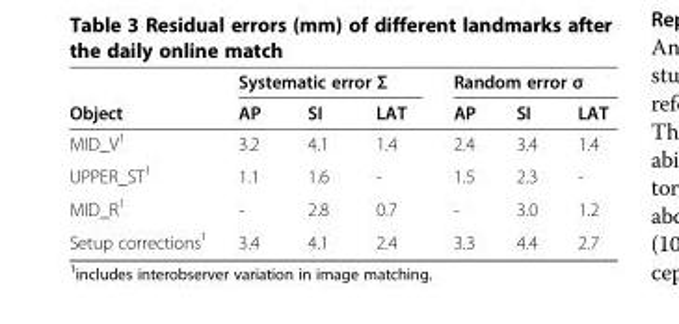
<table><thead><tr><td rowspan="2">Object</td><td colspan="3">Systematic error Σ</td><td colspan="3">Random error σ</td></tr><tr><td>AP</td><td>SI</td><td>LAT</td><td>AP</td><td>SI</td><td>LAT</td></tr></thead><tbody><tr><td>MID_V<sup>1</sup></td><td>3.2</td><td>4.1</td><td>1.4</td><td>2.4</td><td>3.4</td><td>1.4</td></tr><tr><td>UPPER_ST<sup>1</sup></td><td>1.1</td><td>1.6</td><td>-</td><td>1.5</td><td>2.3</td><td>-</td></tr><tr><td>MID_R<sup>1</sup></td><td>-</td><td>2.8</td><td>0.7</td><td>-</td><td>3.0</td><td>1.2</td></tr><tr><td>Setup corrections<sup>1</sup></td><td>3.4</td><td>4.1</td><td>2.4</td><td>3.3</td><td>4.4</td><td>2.7</td></tr></tbody></table>